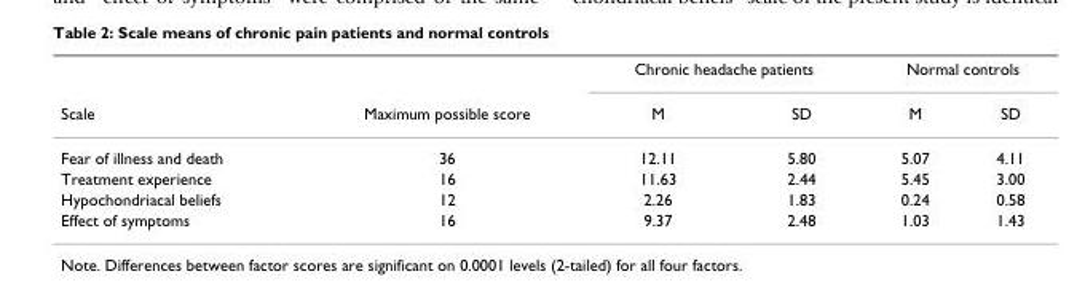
<table><thead><tr><td rowspan="2">Scale</td><td rowspan="2">Maximum possible score</td><td colspan="2">Chronic headache patients</td><td colspan="2">Normal controls</td></tr><tr><td>M</td><td>SD</td><td>M</td><td>SD</td></tr></thead><tbody><tr><td>Fear of illness and death</td><td>36</td><td>12.11</td><td>5.80</td><td>5.07</td><td>4.11</td></tr><tr><td>Treatment experience</td><td>16</td><td>11.63</td><td>2.44</td><td>5.45</td><td>3.00</td></tr><tr><td>Hypochondriacal beliefs</td><td>12</td><td>2.26</td><td>1.83</td><td>0.24</td><td>0.58</td></tr><tr><td>Effect of symptoms</td><td>16</td><td>9.37</td><td>2.48</td><td>1.03</td><td>1.43</td></tr></tbody></table>